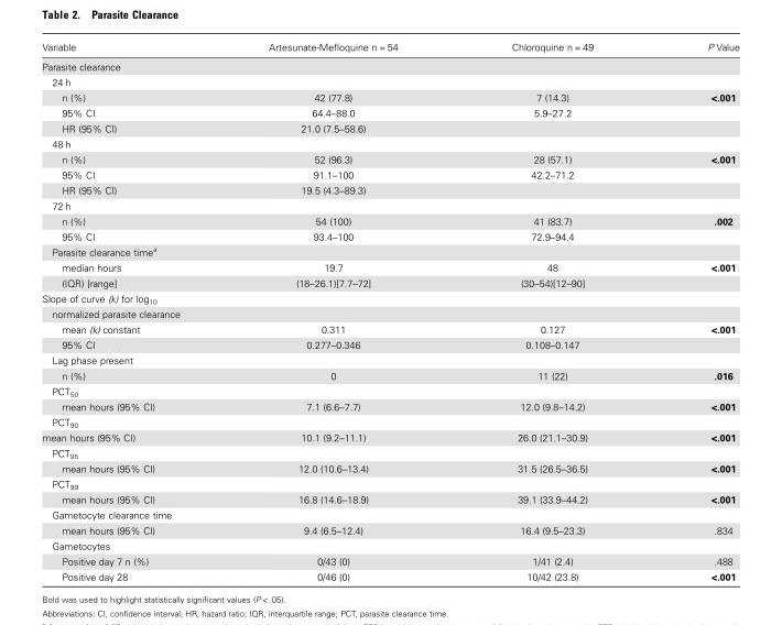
<table><thead><tr><td>Variable</td><td>Artesunate-Mefloquine n = 54</td><td>Chloroquine n = 49</td><td>P Value</td></tr></thead><tbody><tr><td colspan="4">Parasite clearance</td></tr><tr><td colspan="4">24 h</td></tr><tr><td>n (%)</td><td>42 (77.8)</td><td>7 (14.3)</td><td>&lt;.001</td></tr><tr><td>95% CI</td><td>64.4–88.0</td><td>5.9–27.2</td><td></td></tr><tr><td>HR (95% CI)</td><td>21.0 (7.5–58.6)</td><td></td><td></td></tr><tr><td colspan="4">48 h</td></tr><tr><td>n (%)</td><td>52 (96.3)</td><td>28 (57.1)</td><td>&lt;.001</td></tr><tr><td>95% CI</td><td>91.1–100</td><td>42.2–71.2</td><td></td></tr><tr><td>HR (95% CI)</td><td>19.5 (4.3–89.3)</td><td></td><td></td></tr><tr><td colspan="4">72 h</td></tr><tr><td>n (%)</td><td>54 (100)</td><td>41 (83.7)</td><td>.002</td></tr><tr><td>95% CI</td><td>93.4–100</td><td>72.9–94.4</td><td></td></tr><tr><td colspan="4">Parasite clearance time<sup>a</sup></td></tr><tr><td>median hours</td><td>19.7</td><td>48</td><td>&lt;.001</td></tr><tr><td>(IQR) [range]</td><td>(18–26.1)[7.7–72]</td><td>(30–54)[12–90]</td><td></td></tr><tr><td colspan="4">Slope of curve (k) for log<sub>10</sub></td></tr><tr><td colspan="4">normalized parasite clearance</td></tr><tr><td>mean (k) constant</td><td>0.311</td><td>0.127</td><td>&lt;.001</td></tr><tr><td>95% CI</td><td>0.277–0.346</td><td>0.108–0.147</td><td></td></tr><tr><td colspan="4">Lag phase present</td></tr><tr><td>n (%)</td><td>0</td><td>11 (22)</td><td>.016</td></tr><tr><td colspan="4">PCT<sub>50</sub></td></tr><tr><td>mean hours (95% CI)</td><td>7.1 (6.6–7.7)</td><td>12.0 (9.8–14.2)</td><td>&lt;.001</td></tr><tr><td colspan="4">PCT<sub>90</sub></td></tr><tr><td>mean hours (95% CI)</td><td>10.1 (9.2–11.1)</td><td>26.0 (21.1–30.9)</td><td>&lt;.001</td></tr><tr><td colspan="4">PCT<sub>95</sub></td></tr><tr><td>mean hours (95% CI)</td><td>12.0 (10.6–13.4)</td><td>31.5 (26.5–36.5)</td><td>&lt;.001</td></tr><tr><td colspan="4">PCT<sub>99</sub></td></tr><tr><td>mean hours (95% CI)</td><td>16.8 (14.6–18.9)</td><td>39.1 (33.9–44.2)</td><td>&lt;.001</td></tr><tr><td colspan="4">Gametocyte clearance time</td></tr><tr><td>mean hours (95% CI)</td><td>9.4 (6.5–12.4)</td><td>16.4 (9.5–23.3)</td><td>.834</td></tr><tr><td colspan="4">Gametocytes</td></tr><tr><td>Positive day 7 n (%)</td><td>0/43 (0)</td><td>1/41 (2.4)</td><td>.488</td></tr><tr><td>Positive day 28</td><td>0/46 (0)</td><td>10/42 (23.8)</td><td>&lt;.001</td></tr></tbody></table>